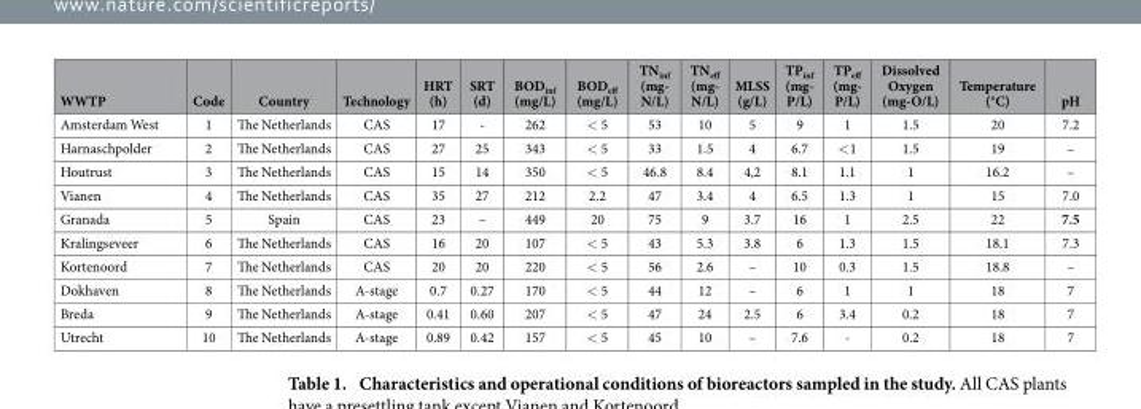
<table><thead><tr><td>WWTP</td><td>Code</td><td>Country</td><td>Technology</td><td>HRT (h)</td><td>SRT (d)</td><td>BOD<sub>inf</sub> (mg/L)</td><td>BOD<sub>eff</sub> (mg/L)</td><td>TN<sub>inf</sub> (mg- N/L)</td><td>TN<sub>eff</sub> (mg- N/L)</td><td>MLSS (g/L)</td><td>TP<sub>inf</sub> (mg- P/L)</td><td>TP<sub>eff</sub> (mg- P/L)</td><td>Dissolved Oxygen (mg-O/L)</td><td>Temperature (°C)</td><td>pH</td></tr></thead><tbody><tr><td>Amsterdam West</td><td>1</td><td>The Netherlands</td><td>CAS</td><td>17</td><td>-</td><td>262</td><td>&lt; 5</td><td>53</td><td>10</td><td>5</td><td>9</td><td>1</td><td>1.5</td><td>20</td><td>7.2</td></tr><tr><td>Harnaschpolder</td><td>2</td><td>The Netherlands</td><td>CAS</td><td>27</td><td>25</td><td>343</td><td>&lt; 5</td><td>33</td><td>1.5</td><td>4</td><td>6.7</td><td>&lt; 1</td><td>1.5</td><td>19</td><td>–</td></tr><tr><td>Houtrust</td><td>3</td><td>The Netherlands</td><td>CAS</td><td>15</td><td>14</td><td>350</td><td>&lt; 5</td><td>46.8</td><td>8.4</td><td>4,2</td><td>8.1</td><td>1.1</td><td>1</td><td>16.2</td><td>–</td></tr><tr><td>Vianen</td><td>4</td><td>The Netherlands</td><td>CAS</td><td>35</td><td>27</td><td>212</td><td>2.2</td><td>47</td><td>3.4</td><td>4</td><td>6.5</td><td>1.3</td><td>1</td><td>15</td><td>7.0</td></tr><tr><td>Granada</td><td>5</td><td>Spain</td><td>CAS</td><td>23</td><td>–</td><td>449</td><td>20</td><td>75</td><td>9</td><td>3.7</td><td>16</td><td>1</td><td>2.5</td><td>22</td><td>7.5</td></tr><tr><td>Kralingseveer</td><td>6</td><td>The Netherlands</td><td>CAS</td><td>16</td><td>20</td><td>107</td><td>&lt; 5</td><td>43</td><td>5.3</td><td>3.8</td><td>6</td><td>1.3</td><td>1.5</td><td>18.1</td><td>7.3</td></tr><tr><td>Kortenoord</td><td>7</td><td>The Netherlands</td><td>CAS</td><td>20</td><td>20</td><td>220</td><td>&lt; 5</td><td>56</td><td>2.6</td><td>–</td><td>10</td><td>0.3</td><td>1.5</td><td>18.8</td><td>–</td></tr><tr><td>Dokhaven</td><td>8</td><td>The Netherlands</td><td>A-stage</td><td>0.7</td><td>0.27</td><td>170</td><td>&lt; 5</td><td>44</td><td>12</td><td>–</td><td>6</td><td>1</td><td>1</td><td>18</td><td>7</td></tr><tr><td>Breda</td><td>9</td><td>The Netherlands</td><td>A-stage</td><td>0.41</td><td>0.60</td><td>207</td><td>&lt; 5</td><td>47</td><td>24</td><td>2.5</td><td>6</td><td>3.4</td><td>0.2</td><td>18</td><td>7</td></tr><tr><td>Utrecht</td><td>10</td><td>The Netherlands</td><td>A-stage</td><td>0.89</td><td>0.42</td><td>157</td><td>&lt; 5</td><td>45</td><td>10</td><td>–</td><td>7.6</td><td>-</td><td>0.2</td><td>18</td><td>7</td></tr></tbody></table>